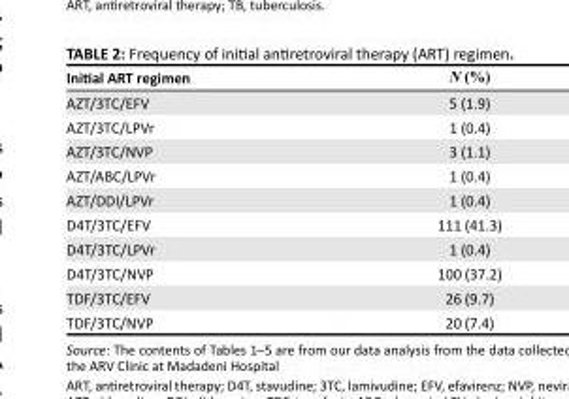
<table><thead><tr><td>Initial ART regimen</td><td>N (%)</td></tr></thead><tbody><tr><td>AZT/3TC/EFV</td><td>5 (1.9)</td></tr><tr><td>AZT/3TC/LPVr</td><td>1 (0.4)</td></tr><tr><td>AZT/3TC/NVP</td><td>3 (1.1)</td></tr><tr><td>AZT/ABC/LPVr</td><td>1 (0.4)</td></tr><tr><td>AZT/DDI/LPVr</td><td>1 (0.4)</td></tr><tr><td>D4T/3TC/EFV</td><td>111 (41.3)</td></tr><tr><td>D4T/3TC/LPVr</td><td>1 (0.4)</td></tr><tr><td>D4T/3TC/NVP</td><td>100 (37.2)</td></tr><tr><td>TDF/3TC/EFV</td><td>26 (9.7)</td></tr><tr><td>TDF/3TC/NVP</td><td>20 (7.4)</td></tr></tbody></table>